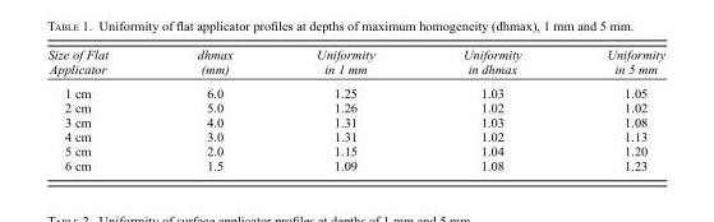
<table><thead><tr><td>Size of Flat Applicator</td><td>dhmax (mm)</td><td>Uniformity in 1 mm</td><td>Uniformity in dhmax</td><td>Uniformity in 5 mm</td></tr></thead><tbody><tr><td>1 cm</td><td>6.0</td><td>1.25</td><td>1.03</td><td>1.05</td></tr><tr><td>2 cm</td><td>5.0</td><td>1.26</td><td>1.02</td><td>1.02</td></tr><tr><td>3 cm</td><td>4.0</td><td>1.31</td><td>1.03</td><td>1.08</td></tr><tr><td>4 cm</td><td>3.0</td><td>1.31</td><td>1.02</td><td>1.13</td></tr><tr><td>5 cm</td><td>2.0</td><td>1.15</td><td>1.04</td><td>1.20</td></tr><tr><td>6 cm</td><td>1.5</td><td>1.09</td><td>1.08</td><td>1.23</td></tr></tbody></table>